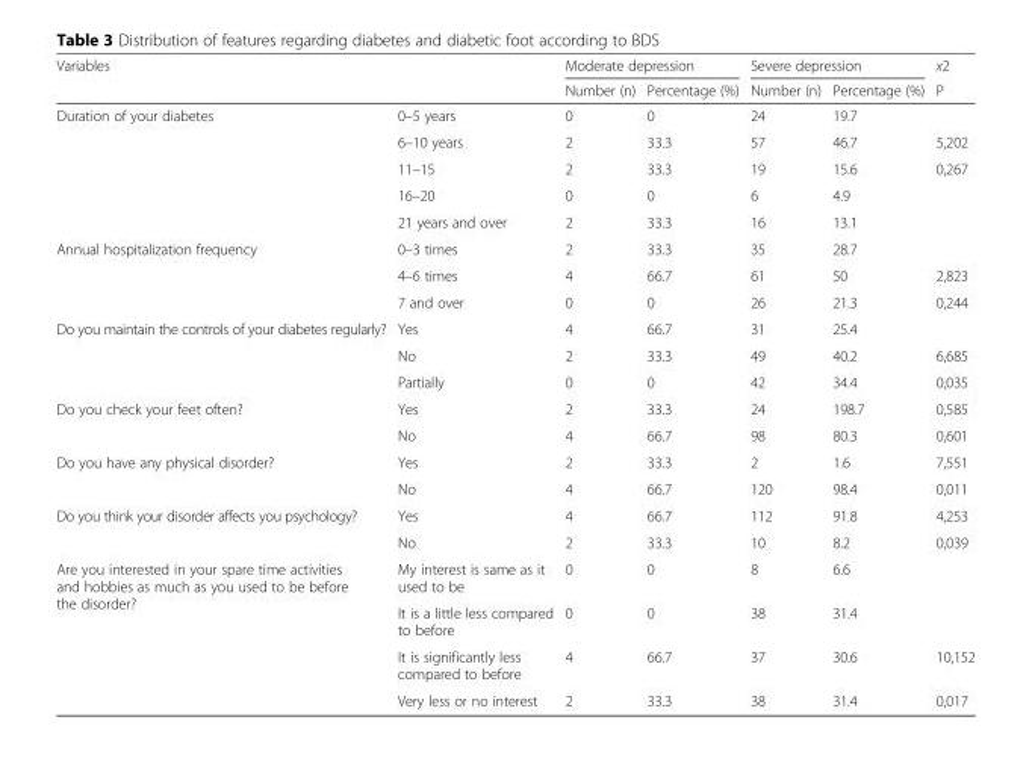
<table><thead><tr><td colspan="2">Variables</td><td colspan="2">Moderate depression</td><td colspan="2">Severe depression</td><td rowspan="2">x2 P</td></tr><tr><td></td><td></td><td>Number (n)</td><td>Percentage (%)</td><td>Number (n)</td><td>Percentage (%)</td></tr></thead><tbody><tr><td rowspan="5">Duration of your diabetes</td><td>0–5 years</td><td>0</td><td>0</td><td>24</td><td>19.7</td><td></td></tr><tr><td>6–10 years</td><td>2</td><td>33.3</td><td>57</td><td>46.7</td><td>5,202</td></tr><tr><td>11–15</td><td>2</td><td>33.3</td><td>19</td><td>15.6</td><td>0,267</td></tr><tr><td>16–20</td><td>0</td><td>0</td><td>6</td><td>4.9</td><td></td></tr><tr><td>21 years and over</td><td>2</td><td>33.3</td><td>16</td><td>13.1</td><td></td></tr><tr><td rowspan="3">Annual hospitalization frequency</td><td>0–3 times</td><td>2</td><td>33.3</td><td>35</td><td>28.7</td><td></td></tr><tr><td>4–6 times</td><td>4</td><td>66.7</td><td>61</td><td>50</td><td>2,823</td></tr><tr><td>7 and over</td><td>0</td><td>0</td><td>26</td><td>21.3</td><td>0,244</td></tr><tr><td rowspan="3">Do you maintain the controls of your diabetes regularly?</td><td>Yes</td><td>4</td><td>66.7</td><td>31</td><td>25.4</td><td></td></tr><tr><td>No</td><td>2</td><td>33.3</td><td>49</td><td>40.2</td><td>6,685</td></tr><tr><td>Partially</td><td>0</td><td>0</td><td>42</td><td>34.4</td><td>0,035</td></tr><tr><td rowspan="2">Do you check your feet often?</td><td>Yes</td><td>2</td><td>33.3</td><td>24</td><td>198.7</td><td>0,585</td></tr><tr><td>No</td><td>4</td><td>66.7</td><td>98</td><td>80.3</td><td>0,601</td></tr><tr><td rowspan="2">Do you have any physical disorder?</td><td>Yes</td><td>2</td><td>33.3</td><td>2</td><td>1.6</td><td>7,551</td></tr><tr><td>No</td><td>4</td><td>66.7</td><td>120</td><td>98.4</td><td>0,011</td></tr><tr><td rowspan="2">Do you think your disorder affects you psychology?</td><td>Yes</td><td>4</td><td>66.7</td><td>112</td><td>91.8</td><td>4,253</td></tr><tr><td>No</td><td>2</td><td>33.3</td><td>10</td><td>8.2</td><td>0,039</td></tr><tr><td rowspan="4">Are you interested in your spare time activities and hobbies as much as you used to be before the disorder?</td><td>My interest is same as it used to be</td><td>0</td><td>0</td><td>8</td><td>6.6</td><td></td></tr><tr><td>It is a little less compared to before</td><td>0</td><td>0</td><td>38</td><td>31.4</td><td></td></tr><tr><td>It is significantly less compared to before</td><td>4</td><td>66.7</td><td>37</td><td>30.6</td><td>10,152</td></tr><tr><td>Very less or no interest</td><td>2</td><td>33.3</td><td>38</td><td>31.4</td><td>0,017</td></tr></tbody></table>